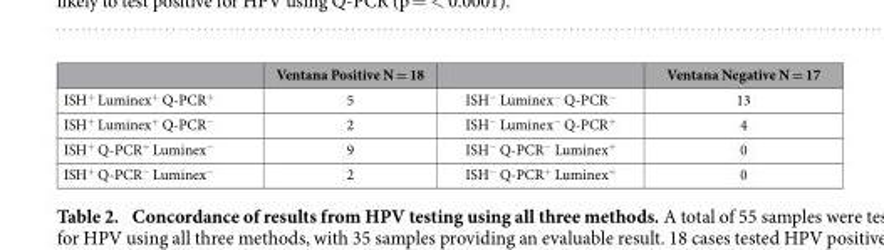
<table><thead><tr><td></td><td>Ventana Positive N = 18</td><td></td><td>Ventana Negative N = 17</td></tr></thead><tbody><tr><td>ISH<sup>+</sup> Luminex<sup>+</sup> Q-PCR<sup>+</sup></td><td>5</td><td>ISH<sup>−</sup> Luminex<sup>−</sup> Q-PCR<sup>−</sup></td><td>13</td></tr><tr><td>ISH<sup>+</sup> Luminex<sup>+</sup> Q-PCR<sup>−</sup></td><td>2</td><td>ISH<sup>−</sup> Luminex<sup>−</sup> Q-PCR<sup>+</sup></td><td>4</td></tr><tr><td>ISH<sup>+</sup> Q-PCR<sup>+</sup> Luminex<sup>−</sup></td><td>9</td><td>ISH<sup>−</sup> Q-PCR<sup>−</sup> Luminex<sup>+</sup></td><td>0</td></tr><tr><td>ISH<sup>+</sup> Q-PCR<sup>−</sup> Luminex<sup>−</sup></td><td>2</td><td>ISH<sup>−</sup> Q-PCR<sup>+</sup> Luminex<sup>+</sup></td><td>0</td></tr></tbody></table>